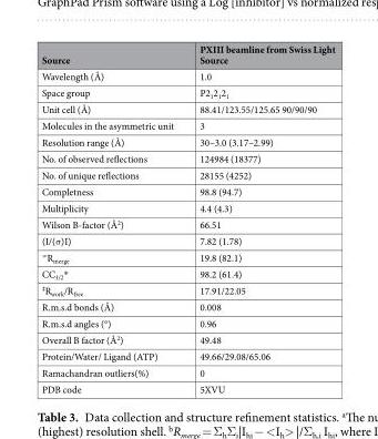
<table><thead><tr><td>Source</td><td>PXIII beamline from Swiss Light Source</td></tr></thead><tbody><tr><td>Wavelength (Å)</td><td>1.0</td></tr><tr><td>Space group</td><td>P2<sub>1</sub>2<sub>1</sub>2<sub>1</sub></td></tr><tr><td>Unit cell (Å)</td><td>88.41/123.55/125.65 90/90/90</td></tr><tr><td>Molecules in the asymmetric unit</td><td>3</td></tr><tr><td>Resolution range (Å)</td><td>30–3.0 (3.17–2.99)</td></tr><tr><td>No. of observed reflections</td><td>124984 (18377)</td></tr><tr><td>No. of unique reflections</td><td>28155 (4252)</td></tr><tr><td>Completness</td><td>98.8 (94.7)</td></tr><tr><td>Multiplicity</td><td>4.4 (4.3)</td></tr><tr><td>Wilson B-factor (Å<sup>2</sup>)</td><td>66.51</td></tr><tr><td>(I/(σ)I)</td><td>7.82 (1.78)</td></tr><tr><td><sup>≠</sup>R<sub>merge</sub></td><td>19.8 (82.1)</td></tr><tr><td>CC<sub>1/2</sub>*</td><td>98.2 (61.4)</td></tr><tr><td><sup>‡</sup>R<sub>work</sub>/R<sub>free</sub></td><td>17.91/22.05</td></tr><tr><td>R.m.s.d bonds (Å)</td><td>0.008</td></tr><tr><td>R.m.s.d angles (°)</td><td>0.96</td></tr><tr><td>Overall B factor (Å<sup>2</sup>)</td><td>49.48</td></tr><tr><td>Protein/Water/ Ligand (ATP)</td><td>49.66/29.08/65.06</td></tr><tr><td>Ramachandran outliers(%)</td><td>0</td></tr><tr><td>PDB code</td><td>5XVU</td></tr></tbody></table>